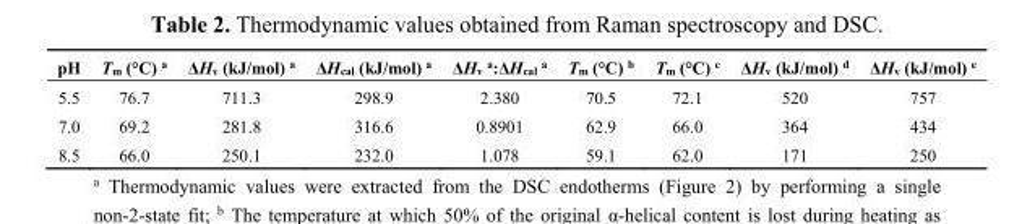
<table><thead><tr><td>pH</td><td>T<sub>m</sub> (°C) <sup>a</sup></td><td>ΔH<sub>v</sub> (kJ/mol) <sup>a</sup></td><td>ΔH<sub>cal</sub> (kJ/mol) <sup>a</sup></td><td>ΔH<sub>v</sub> <sup>a</sup>:ΔH<sub>cal</sub> <sup>a</sup></td><td>T<sub>m</sub> (°C) <sup>b</sup></td><td>T<sub>m</sub> (°C) <sup>c</sup></td><td>ΔH<sub>v</sub> (kJ/mol) <sup>d</sup></td><td>ΔH<sub>v</sub> (kJ/mol) <sup>e</sup></td></tr></thead><tbody><tr><td>5.5</td><td>76.7</td><td>711.3</td><td>298.9</td><td>2.380</td><td>70.5</td><td>72.1</td><td>520</td><td>757</td></tr><tr><td>7.0</td><td>69.2</td><td>281.8</td><td>316.6</td><td>0.8901</td><td>62.9</td><td>66.0</td><td>364</td><td>434</td></tr><tr><td>8.5</td><td>66.0</td><td>250.1</td><td>232.0</td><td>1.078</td><td>59.1</td><td>62.0</td><td>171</td><td>250</td></tr></tbody></table>